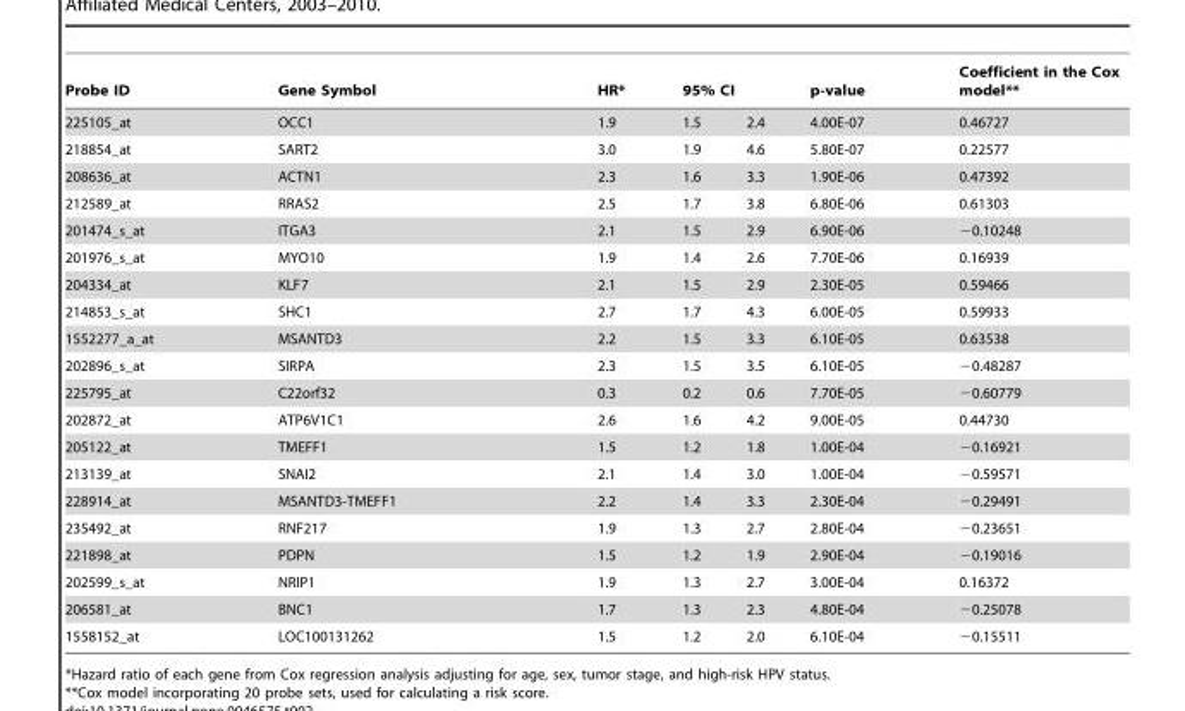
<table><thead><tr><td rowspan="2">Probe ID 225105_at</td><td rowspan="2">Gene Symbol OCC1</td><td rowspan="2">HR* 1.9</td><td colspan="2">95% CI</td><td rowspan="2">p-value 4.00E-07</td><td rowspan="2">Coefficient in the Cox model** 0.46727</td></tr><tr><td>1.5</td><td>2.4</td></tr></thead><tbody><tr><td>218854_at</td><td>SART2</td><td>3.0</td><td>1.9</td><td>4.6</td><td>5.80E-07</td><td>0.22577</td></tr><tr><td>208636_at</td><td>ACTN1</td><td>2.3</td><td>1.6</td><td>3.3</td><td>1.90E-06</td><td>0.47392</td></tr><tr><td>212589_at</td><td>RRAS2</td><td>2.5</td><td>1.7</td><td>3.8</td><td>6.80E-06</td><td>0.61303</td></tr><tr><td>201474_s_at</td><td>ITGA3</td><td>2.1</td><td>1.5</td><td>2.9</td><td>6.90E-06</td><td>−0.10248</td></tr><tr><td>201976_s_at</td><td>MYO10</td><td>1.9</td><td>1.4</td><td>2.6</td><td>7.70E-06</td><td>0.16939</td></tr><tr><td>204334_at</td><td>KLF7</td><td>2.1</td><td>1.5</td><td>2.9</td><td>2.30E-05</td><td>0.59466</td></tr><tr><td>214853_s_at</td><td>SHC1</td><td>2.7</td><td>1.7</td><td>4.3</td><td>6.00E-05</td><td>0.59933</td></tr><tr><td>1552277_a_at</td><td>MSANTD3</td><td>2.2</td><td>1.5</td><td>3.3</td><td>6.10E-05</td><td>0.63538</td></tr><tr><td>202896_s_at</td><td>SIRPA</td><td>2.3</td><td>1.5</td><td>3.5</td><td>6.10E-05</td><td>−0.48287</td></tr><tr><td>225795_at</td><td>C22orf32</td><td>0.3</td><td>0.2</td><td>0.6</td><td>7.70E-05</td><td>−0.60779</td></tr><tr><td>202872_at</td><td>ATP6V1C1</td><td>2.6</td><td>1.6</td><td>4.2</td><td>9.00E-05</td><td>0.44730</td></tr><tr><td>205122_at</td><td>TMEFF1</td><td>1.5</td><td>1.2</td><td>1.8</td><td>1.00E-04</td><td>−0.16921</td></tr><tr><td>213139_at</td><td>SNAI2</td><td>2.1</td><td>1.4</td><td>3.0</td><td>1.00E-04</td><td>−0.59571</td></tr><tr><td>228914_at</td><td>MSANTD3-TMEFF1</td><td>2.2</td><td>1.4</td><td>3.3</td><td>2.30E-04</td><td>−0.29491</td></tr><tr><td>235492_at</td><td>RNF217</td><td>1.9</td><td>1.3</td><td>2.7</td><td>2.80E-04</td><td>−0.23651</td></tr><tr><td>221898_at</td><td>PDPN</td><td>1.5</td><td>1.2</td><td>1.9</td><td>2.90E-04</td><td>−0.19016</td></tr><tr><td>202599_s_at</td><td>NRIP1</td><td>1.9</td><td>1.3</td><td>2.7</td><td>3.00E-04</td><td>0.16372</td></tr><tr><td>206581_at</td><td>BNC1</td><td>1.7</td><td>1.3</td><td>2.3</td><td>4.80E-04</td><td>−0.25078</td></tr><tr><td>1558152_at</td><td>LOC100131262</td><td>1.5</td><td>1.2</td><td>2.0</td><td>6.10E-04</td><td>−0.15511</td></tr></tbody></table>